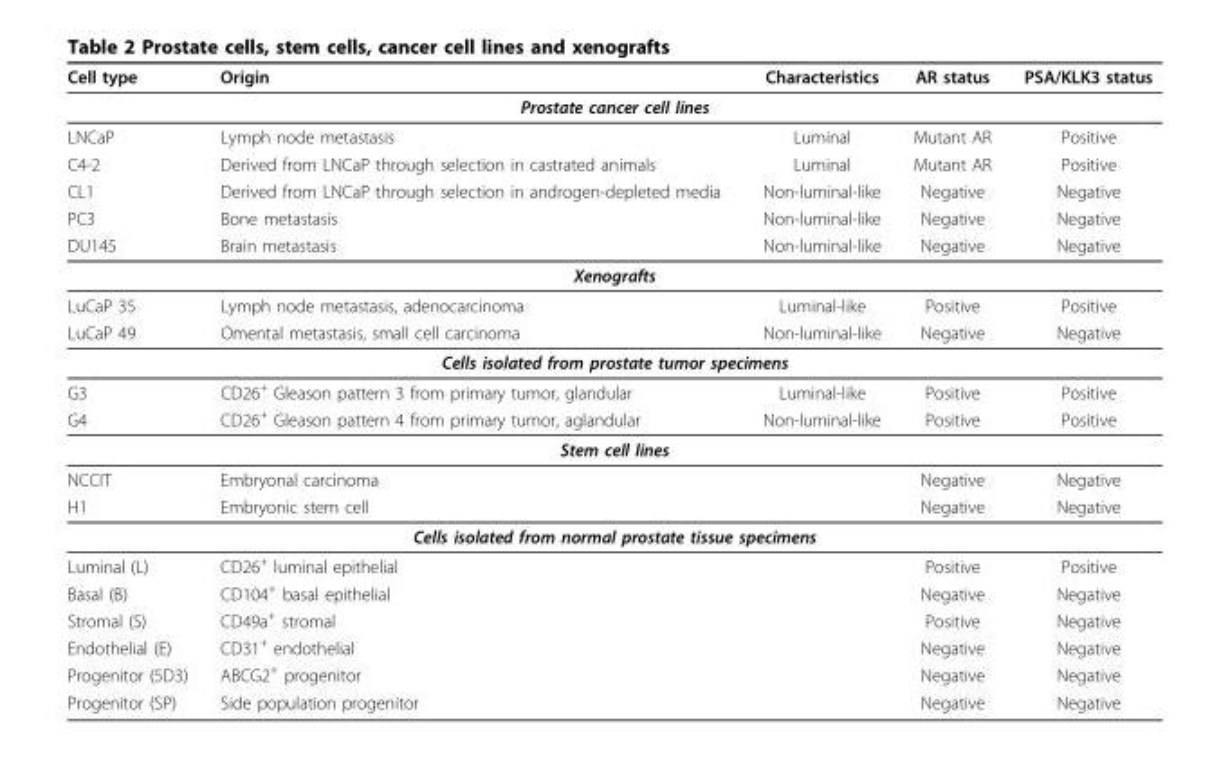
<table><thead><tr><td>Cell type</td><td>Origin</td><td>Characteristics</td><td>AR status</td><td>PSA/KLK3 status</td></tr></thead><tbody><tr><td colspan="5">Prostate cancer cell lines</td></tr><tr><td>LNCaP</td><td>Lymph node metastasis</td><td>Luminal</td><td>Mutant AR</td><td>Positive</td></tr><tr><td>C4-2</td><td>Derived from LNCaP through selection in castrated animals</td><td>Luminal</td><td>Mutant AR</td><td>Positive</td></tr><tr><td>CL1</td><td>Derived from LNCaP through selection in androgen-depleted media</td><td>Non-luminal-like</td><td>Negative</td><td>Negative</td></tr><tr><td>PC3</td><td>Bone metastasis</td><td>Non-luminal-like</td><td>Negative</td><td>Negative</td></tr><tr><td>DU145</td><td>Brain metastasis</td><td>Non-luminal-like</td><td>Negative</td><td>Negative</td></tr><tr><td colspan="5">Xenografts</td></tr><tr><td>LuCaP 35</td><td>Lymph node metastasis, adenocarcinoma</td><td>Luminal-like</td><td>Positive</td><td>Positive</td></tr><tr><td>LuCaP 49</td><td>Omental metastasis, small cell carcinoma</td><td>Non-luminal-like</td><td>Negative</td><td>Negative</td></tr><tr><td colspan="5">Cells isolated from prostate tumor specimens</td></tr><tr><td>G3</td><td>CD26<sup>+</sup> Gleason pattern 3 from primary tumor, glandular</td><td>Luminal-like</td><td>Positive</td><td>Positive</td></tr><tr><td>G4</td><td>CD26<sup>+</sup> Gleason pattern 4 from primary tumor, aglandular</td><td>Non-luminal-like</td><td>Positive</td><td>Positive</td></tr><tr><td colspan="5">Stem cell lines</td></tr><tr><td>NCCIT</td><td>Embryonal carcinoma</td><td></td><td>Negative</td><td>Negative</td></tr><tr><td>H1</td><td>Embryonic stem cell</td><td></td><td>Negative</td><td>Negative</td></tr><tr><td colspan="5">Cells isolated from normal prostate tissue specimens</td></tr><tr><td>Luminal (L)</td><td>CD26<sup>+</sup> luminal epithelial</td><td></td><td>Positive</td><td>Positive</td></tr><tr><td>Basal (B)</td><td>CD104<sup>+</sup> basal epithelial</td><td></td><td>Negative</td><td>Negative</td></tr><tr><td>Stromal (S)</td><td>CD49a<sup>+</sup> stromal</td><td></td><td>Positive</td><td>Negative</td></tr><tr><td>Endothelial (E)</td><td>CD31<sup>+</sup> endothelial</td><td></td><td>Negative</td><td>Negative</td></tr><tr><td>Progenitor (5D3)</td><td>ABCG2<sup>+</sup> progenitor</td><td></td><td>Negative</td><td>Negative</td></tr><tr><td>Progenitor (SP)</td><td>Side population progenitor</td><td></td><td>Negative</td><td>Negative</td></tr></tbody></table>